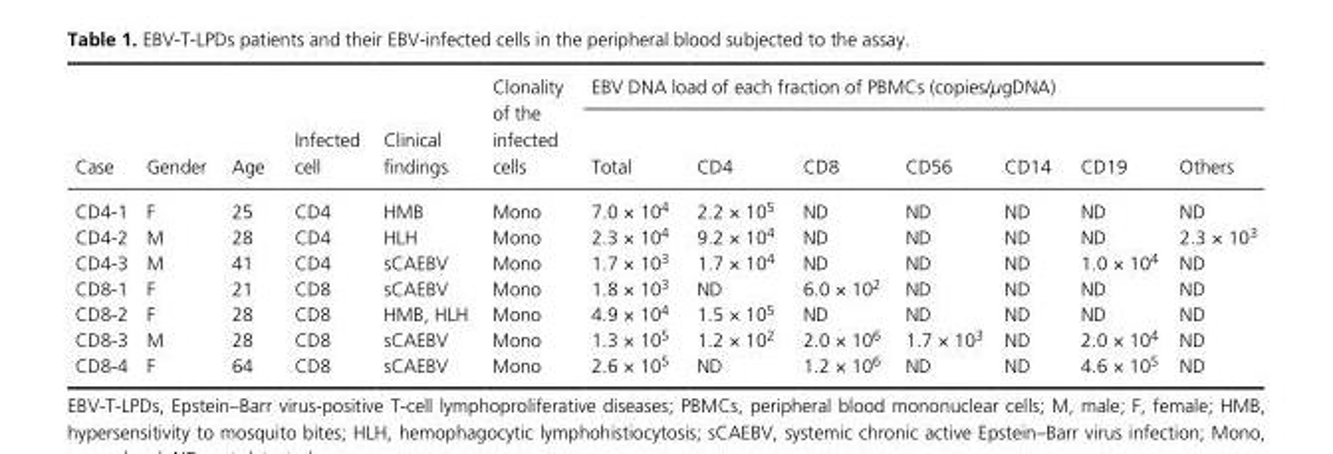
<table><thead><tr><td rowspan="2">Case</td><td rowspan="2">Gender</td><td rowspan="2">Age</td><td rowspan="2">Infected cell</td><td rowspan="2">Clinical findings</td><td rowspan="2">Clonality of the infected cells</td><td colspan="7">EBV DNA load of each fraction of PBMCs (copies/μgDNA)</td></tr><tr><td>Total</td><td>CD4</td><td>CD8</td><td>CD56</td><td>CD14</td><td>CD19</td><td>Others</td></tr></thead><tbody><tr><td>CD4- 1</td><td>F</td><td>25</td><td>CD4</td><td>HMB</td><td>Mono</td><td>7.0 × 10<sup>4</sup></td><td>2.2 × 10<sup>5</sup></td><td>ND</td><td>ND</td><td>ND</td><td>ND</td><td>ND</td></tr><tr><td>CD4- 2</td><td>M</td><td>28</td><td>CD4</td><td>HLH</td><td>Mono</td><td>2.3 × 10<sup>4</sup></td><td>9.2 × 10<sup>4</sup></td><td>ND</td><td>ND</td><td>ND</td><td>ND</td><td>2.3 × 10<sup>3</sup></td></tr><tr><td>CD4- 3</td><td>M</td><td>41</td><td>CD4</td><td>sCAEBV</td><td>Mono</td><td>1.7 × 10<sup>3</sup></td><td>1.7 × 10<sup>4</sup></td><td>ND</td><td>ND</td><td>ND</td><td>1.0 × 10<sup>4</sup></td><td>ND</td></tr><tr><td>CD8- 1</td><td>F</td><td>21</td><td>CD8</td><td>sCAEBV</td><td>Mono</td><td>1.8 × 10<sup>3</sup></td><td>ND</td><td>6.0 × 10<sup>2</sup></td><td>ND</td><td>ND</td><td>ND</td><td>ND</td></tr><tr><td>CD8- 2</td><td>F</td><td>28</td><td>CD8</td><td>HMB, HLH</td><td>Mono</td><td>4.9 × 10<sup>4</sup></td><td>1.5 × 10<sup>5</sup></td><td>ND</td><td>ND</td><td>ND</td><td>ND</td><td>ND</td></tr><tr><td>CD8- 3</td><td>M</td><td>28</td><td>CD8</td><td>sCAEBV</td><td>Mono</td><td>1.3 × 10<sup>5</sup></td><td>1.2 × 10<sup>2</sup></td><td>2.0 × 10<sup>6</sup></td><td>1.7 × 10<sup>3</sup></td><td>ND</td><td>2.0 × 10<sup>4</sup></td><td>ND</td></tr><tr><td>CD8- 4</td><td>F</td><td>64</td><td>CD8</td><td>sCAEBV</td><td>Mono</td><td>2.6 × 10<sup>5</sup></td><td>ND</td><td>1.2 × 10<sup>6</sup></td><td>ND</td><td>ND</td><td>4.6 × 10<sup>5</sup></td><td>ND</td></tr></tbody></table>